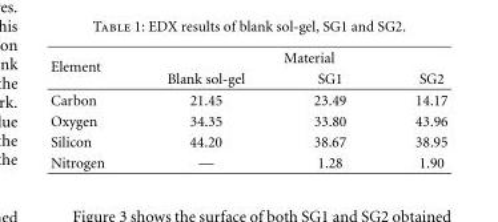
<table><thead><tr><td rowspan="2">Element</td><td colspan="3">Material</td></tr><tr><td>Blank sol-gel</td><td>SG1</td><td>SG2</td></tr></thead><tbody><tr><td>Carbon</td><td>21.45</td><td>23.49</td><td>14.17</td></tr><tr><td>Oxygen</td><td>34.35</td><td>33.80</td><td>43.96</td></tr><tr><td>Silicon</td><td>44.20</td><td>38.67</td><td>38.95</td></tr><tr><td>Nitrogen</td><td>—</td><td>1.28</td><td>1.90</td></tr></tbody></table>